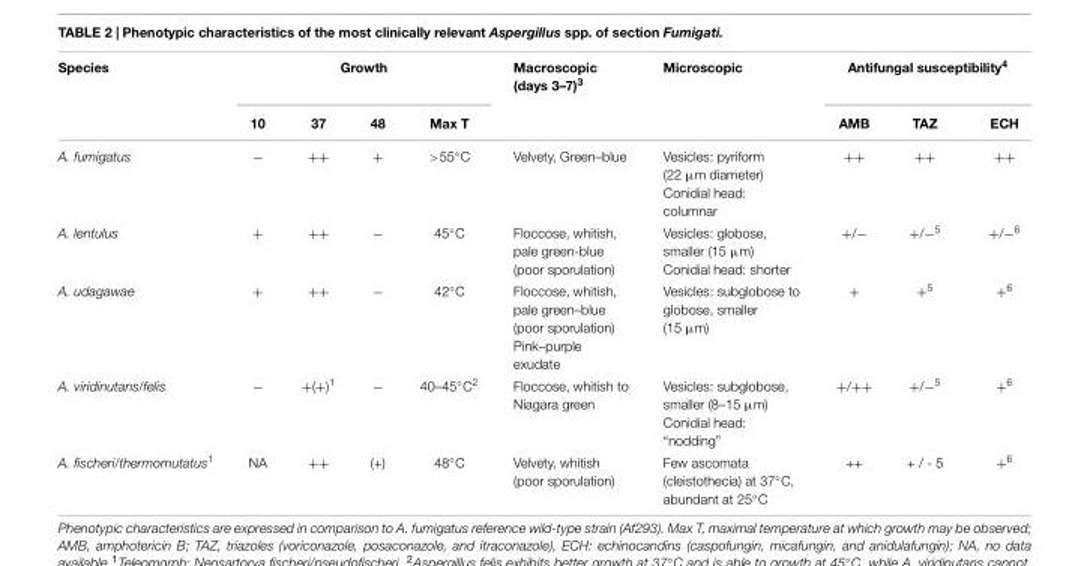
<table><thead><tr><td rowspan="2">Species</td><td colspan="4">Growth</td><td rowspan="2">Macroscopic (days 3–7)<sup>3</sup></td><td rowspan="2">Microscopic</td><td colspan="3">Antifungal susceptibility<sup>4</sup></td></tr><tr><td>10</td><td>37</td><td>48</td><td>Max T</td><td>AMB</td><td>TAZ</td><td>ECH</td></tr></thead><tbody><tr><td>A. fumigatus</td><td>−</td><td>++</td><td>+</td><td>&gt;55◦C</td><td>Velvety, Green–blue</td><td>Vesicles: pyriform (22 µm diameter) Conidial head: columnar</td><td>++</td><td>++</td><td>++</td></tr><tr><td>A. lentulus</td><td>+</td><td>++</td><td>−</td><td>45◦C</td><td>Floccose, whitish, pale green-blue (poor sporulation)</td><td>Vesicles: globose, smaller (15 µm) Conidial head: shorter</td><td>+/−</td><td>+/−<sup>5</sup></td><td>+/−<sup>6</sup></td></tr><tr><td>A. udagawae</td><td>+</td><td>++</td><td>−</td><td>42◦C</td><td>Floccose, whitish, pale green–blue (poor sporulation) Pink–purple exudate</td><td>Vesicles: subglobose to globose, smaller (15 µm)</td><td>+</td><td>+<sup>5</sup></td><td>+<sup>6</sup></td></tr><tr><td>A. viridinutans/felis</td><td>−</td><td>+(+)<sup>1</sup></td><td>−</td><td>40–45◦C2</td><td>Floccose, whitish to Niagara green</td><td>Vesicles: subglobose, smaller (8–15 µm) Conidial head: “nodding”</td><td>+/++</td><td>+/−<sup>5</sup></td><td>+<sup>6</sup></td></tr><tr><td>A. fischeri/thermomutatus<sup>1</sup></td><td>NA</td><td>++</td><td>(+)</td><td>48◦C</td><td>Velvety, whitish (poor sporulation)</td><td>Few ascomata (cleistothecia) at 37◦C, abundant at 25◦C</td><td>++</td><td>+ / - 5</td><td>+<sup>6</sup></td></tr></tbody></table>